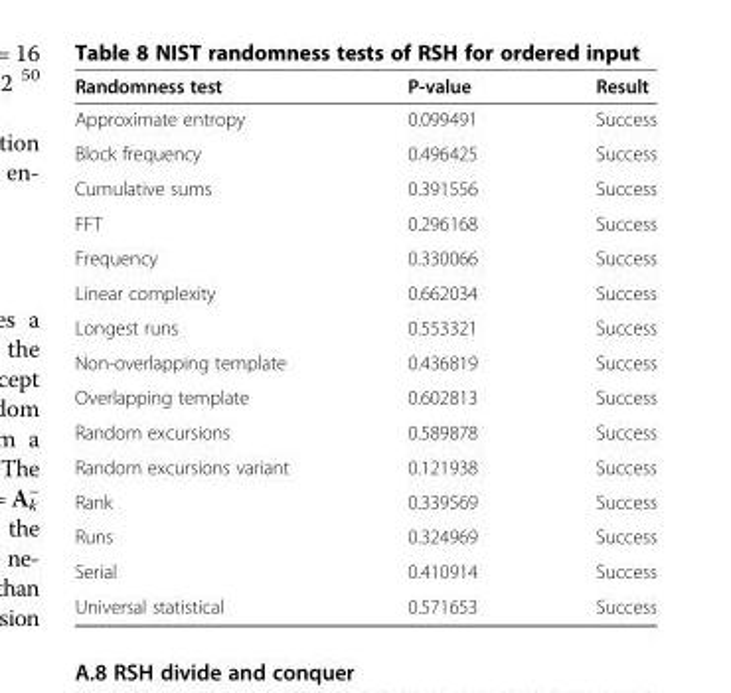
<table><thead><tr><td>Randomness test</td><td>P-value</td><td>Result</td></tr></thead><tbody><tr><td>Approximate entropy</td><td>0.099491</td><td>Success</td></tr><tr><td>Block frequency</td><td>0.496425</td><td>Success</td></tr><tr><td>Cumulative sums</td><td>0.391556</td><td>Success</td></tr><tr><td>FFT</td><td>0.296168</td><td>Success</td></tr><tr><td>Frequency</td><td>0.330066</td><td>Success</td></tr><tr><td>Linear complexity</td><td>0.662034</td><td>Success</td></tr><tr><td>Longest runs</td><td>0.553321</td><td>Success</td></tr><tr><td>Non-overlapping template</td><td>0.436819</td><td>Success</td></tr><tr><td>Overlapping template</td><td>0.602813</td><td>Success</td></tr><tr><td>Random excursions</td><td>0.589878</td><td>Success</td></tr><tr><td>Random excursions variant</td><td>0.121938</td><td>Success</td></tr><tr><td>Rank</td><td>0.339569</td><td>Success</td></tr><tr><td>Runs</td><td>0.324969</td><td>Success</td></tr><tr><td>Serial</td><td>0.410914</td><td>Success</td></tr><tr><td>Universal statistical</td><td>0.571653</td><td>Success</td></tr></tbody></table>